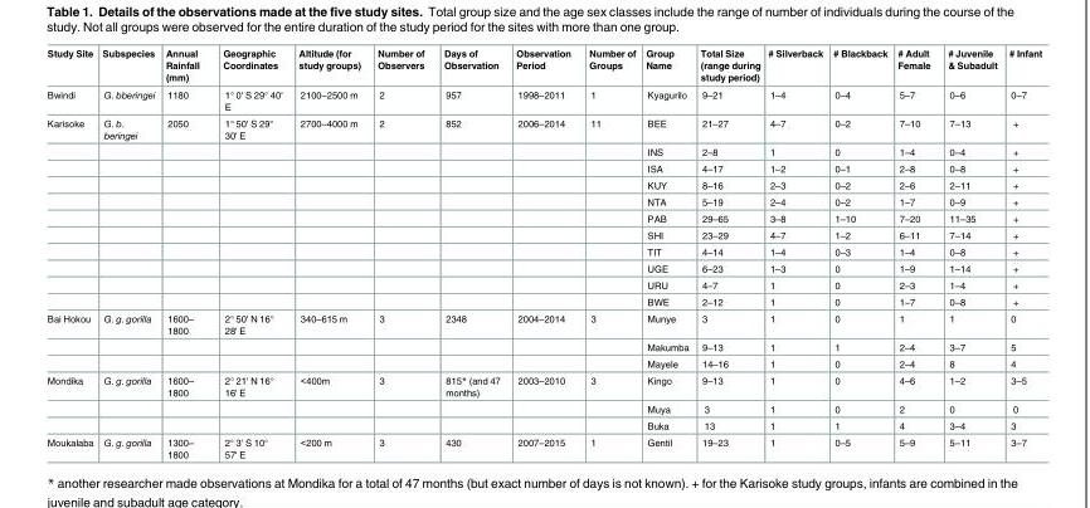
<table><thead><tr><td>Study Site</td><td>Subspecies</td><td>Annual Rainfall (mm)</td><td>Geographic Coordinates</td><td>Altitude (for study groups)</td><td>Number of Observers</td><td>Days of Observation</td><td>Observation Period</td><td>Number of Groups</td><td>Group Name</td><td>Total Size (range during study period)</td><td># Silverback</td><td># Blackback</td><td># Adult Female</td><td># Juvenile &amp; Subadult</td><td># Infant</td></tr></thead><tbody><tr><td>Bwindi</td><td>G. bberingei</td><td>1180</td><td>1° 0&#x27; S 29° 40&#x27; E</td><td>2100–2500 m</td><td>2</td><td>957</td><td>1998–2011</td><td>1</td><td>Kyagurilo</td><td>9–21</td><td>1–4</td><td>0–4</td><td>5–7</td><td>0–6</td><td>0–7</td></tr><tr><td rowspan="11">Karisoke</td><td>G. b. beringei</td><td>2050</td><td>1° 50&#x27; S 29° 30&#x27; E</td><td>2700–4000 m</td><td>2</td><td>852</td><td>2006–2014</td><td>11</td><td>BEE</td><td>21–27</td><td>4–7</td><td>0–2</td><td>7–10</td><td>7–13</td><td>+</td></tr><tr><td></td><td></td><td></td><td></td><td></td><td></td><td></td><td></td><td>INS</td><td>2–8</td><td>1</td><td>0</td><td>1–4</td><td>0–4</td><td>+</td></tr><tr><td></td><td></td><td></td><td></td><td></td><td></td><td></td><td></td><td>ISA</td><td>4–17</td><td>1–2</td><td>0–1</td><td>2–8</td><td>0–8</td><td>+</td></tr><tr><td></td><td></td><td></td><td></td><td></td><td></td><td></td><td></td><td>KUY</td><td>8–16</td><td>2–3</td><td>0–2</td><td>2–6</td><td>2–11</td><td>+</td></tr><tr><td></td><td></td><td></td><td></td><td></td><td></td><td></td><td></td><td>NTA</td><td>5–19</td><td>2–4</td><td>0–2</td><td>1–7</td><td>0–9</td><td>+</td></tr><tr><td></td><td></td><td></td><td></td><td></td><td></td><td></td><td></td><td>PAB</td><td>29–65</td><td>3–8</td><td>1–10</td><td>7–20</td><td>11–35</td><td>+</td></tr><tr><td></td><td></td><td></td><td></td><td></td><td></td><td></td><td></td><td>SHI</td><td>23–29</td><td>4–7</td><td>1–2</td><td>6–11</td><td>7–14</td><td>+</td></tr><tr><td></td><td></td><td></td><td></td><td></td><td></td><td></td><td></td><td>TIT</td><td>4–14</td><td>1–4</td><td>0–3</td><td>1–4</td><td>0–8</td><td>+</td></tr><tr><td></td><td></td><td></td><td></td><td></td><td></td><td></td><td></td><td>UGE</td><td>6–23</td><td>1–3</td><td>0</td><td>1–9</td><td>1–14</td><td>+</td></tr><tr><td></td><td></td><td></td><td></td><td></td><td></td><td></td><td></td><td>URU</td><td>4–7</td><td>1</td><td>0</td><td>2–3</td><td>1–4</td><td>+</td></tr><tr><td></td><td></td><td></td><td></td><td></td><td></td><td></td><td></td><td>BWE</td><td>2–12</td><td>1</td><td>0</td><td>1–7</td><td>0–8</td><td>+</td></tr><tr><td rowspan="3">Bai Hokou</td><td>G. g. gorilla</td><td>1600– 1800</td><td>2° 50&#x27; N 16° 28&#x27; E</td><td>340–615 m</td><td>3</td><td>2348</td><td>2004–2014</td><td>3</td><td>Munye</td><td>3</td><td>1</td><td>0</td><td>1</td><td>1</td><td>0</td></tr><tr><td></td><td></td><td></td><td></td><td></td><td></td><td></td><td></td><td>Makumba</td><td>9–13</td><td>1</td><td>1</td><td>2–4</td><td>3–7</td><td>5</td></tr><tr><td></td><td></td><td></td><td></td><td></td><td></td><td></td><td></td><td>Mayele</td><td>14–16</td><td>1</td><td>0</td><td>2–4</td><td>8</td><td>4</td></tr><tr><td rowspan="3">Mondika</td><td>G. g. gorilla</td><td>1600– 1800</td><td>2° 21&#x27; N 16° 16&#x27; E</td><td>&lt;400m</td><td>3</td><td>815* (and 47 months)</td><td>2003–2010</td><td>3</td><td>Kingo</td><td>9–13</td><td>1</td><td>0</td><td>4–6</td><td>1–2</td><td>3–5</td></tr><tr><td></td><td></td><td></td><td></td><td></td><td></td><td></td><td></td><td>Muya</td><td>3</td><td>1</td><td>0</td><td>2</td><td>0</td><td>0</td></tr><tr><td></td><td></td><td></td><td></td><td></td><td></td><td></td><td></td><td>Buka</td><td>13</td><td>1</td><td>1</td><td>4</td><td>3–4</td><td>3</td></tr><tr><td>Moukalaba</td><td>G. g. gorilla</td><td>1300– 1800</td><td>2° 3&#x27; S 10° 57&#x27; E</td><td>&lt;200 m</td><td>3</td><td>430</td><td>2007–2015</td><td>1</td><td>Gentil</td><td>19–23</td><td>1</td><td>0–5</td><td>5–9</td><td>5–11</td><td>3–7</td></tr></tbody></table>